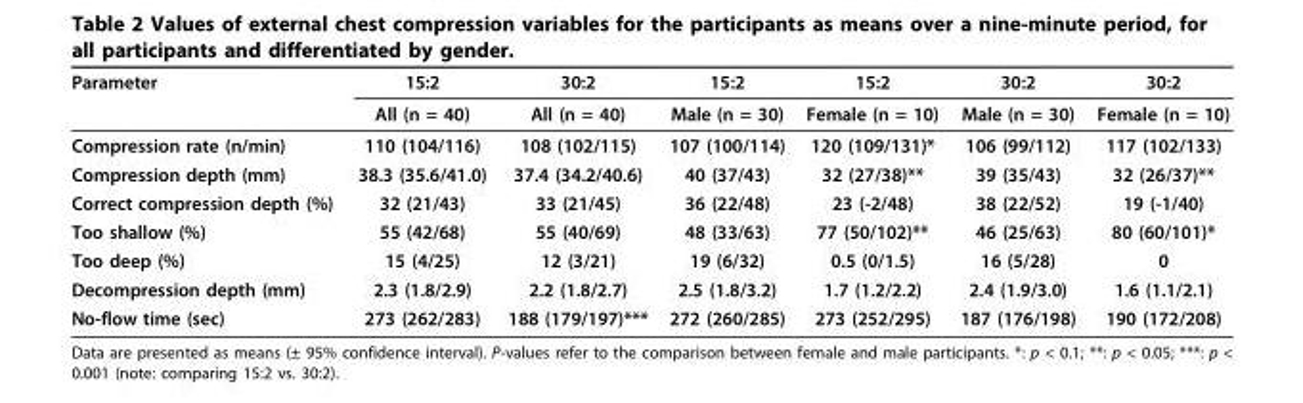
<table><thead><tr><td rowspan="2">Parameter</td><td rowspan="2">15:2 All (n = 40)</td><td rowspan="2">30:2 All (n = 40)</td><td rowspan="2">15:2 Male (n = 30)</td><td rowspan="2">15:2 Female (n = 10)</td><td rowspan="2">30:2 Male (n = 30)</td><td rowspan="2">30:2 Female (n = 10)</td></tr><tr></tr></thead><tbody><tr><td>Compression rate (n/min)</td><td>110 (104/116)</td><td>108 (102/115)</td><td>107 (100/114)</td><td>120 (109/131)*</td><td>106 (99/112)</td><td>117 (102/133)</td></tr><tr><td>Compression depth (mm)</td><td>38.3 (35.6/41.0)</td><td>37.4 (34.2/40.6)</td><td>40 (37/43)</td><td>32 (27/38)**</td><td>39 (35/43)</td><td>32 (26/37)**</td></tr><tr><td>Correct compression depth (%)</td><td>32 (21/43)</td><td>33 (21/45)</td><td>36 (22/48)</td><td>23 (-2/48)</td><td>38 (22/52)</td><td>19 (-1/40)</td></tr><tr><td>Too shallow (%)</td><td>55 (42/68)</td><td>55 (40/69)</td><td>48 (33/63)</td><td>77 (50/102)**</td><td>46 (25/63)</td><td>80 (60/101)*</td></tr><tr><td>Too deep (%)</td><td>15 (4/25)</td><td>12 (3/21)</td><td>19 (6/32)</td><td>0.5 (0/1.5)</td><td>16 (5/28)</td><td>0</td></tr><tr><td>Decompression depth (mm)</td><td>2.3 (1.8/2.9)</td><td>2.2 (1.8/2.7)</td><td>2.5 (1.8/3.2)</td><td>1.7 (1.2/2.2)</td><td>2.4 (1.9/3.0)</td><td>1.6 (1.1/2.1)</td></tr><tr><td>No-flow time (sec)</td><td>273 (262/283)</td><td>188 (179/197)***</td><td>272 (260/285)</td><td>273 (252/295)</td><td>187 (176/198)</td><td>190 (172/208)</td></tr></tbody></table>